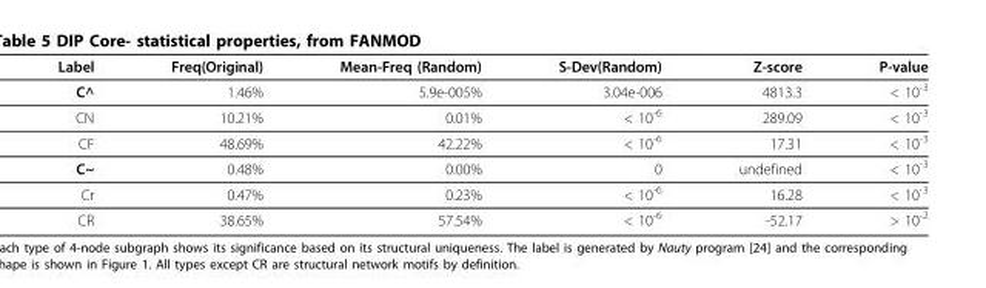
<table><thead><tr><td>Label</td><td>Freq(Original)</td><td>Mean-Freq (Random)</td><td>S-Dev(Random)</td><td>Z-score</td><td>P-value</td></tr></thead><tbody><tr><td>C^</td><td>1.46%</td><td>5.9e-005%</td><td>3.04e-006</td><td>4813.3</td><td>&lt; 10<sup>-3</sup></td></tr><tr><td>CN</td><td>10.21%</td><td>0.01%</td><td>&lt; 10<sup>-6</sup></td><td>289.09</td><td>&lt; 10<sup>-3</sup></td></tr><tr><td>CF</td><td>48.69%</td><td>42.22%</td><td>&lt; 10<sup>-6</sup></td><td>17.31</td><td>&lt; 10<sup>-3</sup></td></tr><tr><td>C~</td><td>0.48%</td><td>0.00%</td><td>0</td><td>undefined</td><td>&lt; 10<sup>-3</sup></td></tr><tr><td>Cr</td><td>0.47%</td><td>0.23%</td><td>&lt; 10<sup>-6</sup></td><td>16.28</td><td>&lt; 10<sup>-3</sup></td></tr><tr><td>CR</td><td>38.65%</td><td>57.54%</td><td>&lt; 10<sup>-6</sup></td><td>-52.17</td><td>&gt; 10<sup>-2</sup></td></tr></tbody></table>